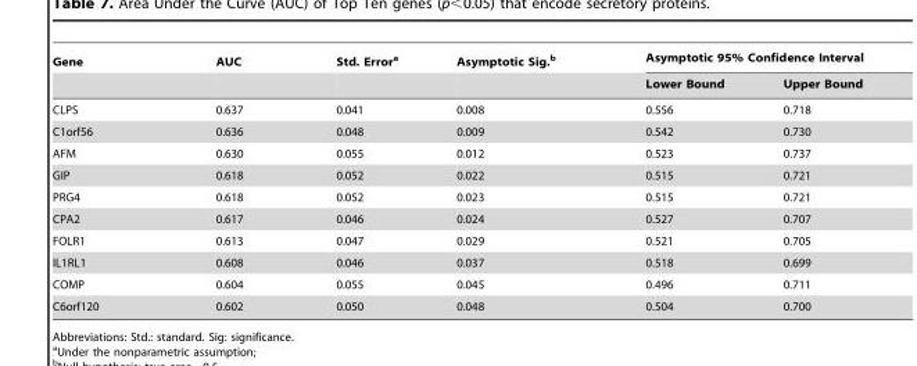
<table><thead><tr><td rowspan="2">Gene</td><td rowspan="2">AUC</td><td rowspan="2">Std. Error<sup>a</sup></td><td rowspan="2">Asymptotic Sig.<sup>b</sup></td><td colspan="2">Asymptotic 95% Confidence Interval</td></tr><tr><td>Lower Bound</td><td>Upper Bound</td></tr></thead><tbody><tr><td>CLPS</td><td>0.637</td><td>0.041</td><td>0.008</td><td>0.556</td><td>0.718</td></tr><tr><td>C1orf56</td><td>0.636</td><td>0.048</td><td>0.009</td><td>0.542</td><td>0.730</td></tr><tr><td>AFM</td><td>0.630</td><td>0.055</td><td>0.012</td><td>0.523</td><td>0.737</td></tr><tr><td>GIP</td><td>0.618</td><td>0.052</td><td>0.022</td><td>0.515</td><td>0.721</td></tr><tr><td>PRG4</td><td>0.618</td><td>0.052</td><td>0.023</td><td>0.515</td><td>0.721</td></tr><tr><td>CPA2</td><td>0.617</td><td>0.046</td><td>0.024</td><td>0.527</td><td>0.707</td></tr><tr><td>FOLR1</td><td>0.613</td><td>0.047</td><td>0.029</td><td>0.521</td><td>0.705</td></tr><tr><td>IL1RL1</td><td>0.608</td><td>0.046</td><td>0.037</td><td>0.518</td><td>0.699</td></tr><tr><td>COMP</td><td>0.604</td><td>0.055</td><td>0.045</td><td>0.496</td><td>0.711</td></tr><tr><td>C6orf120</td><td>0.602</td><td>0.050</td><td>0.048</td><td>0.504</td><td>0.700</td></tr></tbody></table>